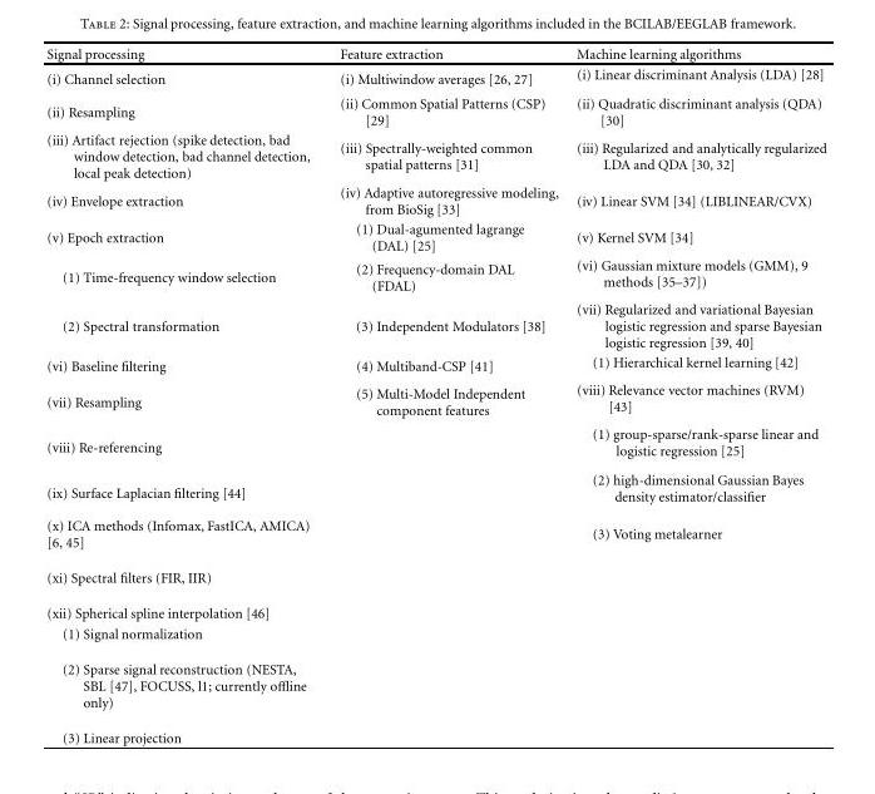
<table><thead><tr><td>Signal processing</td><td>Feature extraction</td><td>Machine learning algorithms</td></tr></thead><tbody><tr><td>(i) Channel selection</td><td>(i) Multiwindow averages [26, 27]</td><td>(i) Linear discriminant Analysis (LDA) [28]</td></tr><tr><td>(ii) Resampling</td><td>(ii) Common Spatial Patterns (CSP) [29]</td><td>(ii) Quadratic discriminant analysis (QDA) [30]</td></tr><tr><td>(iii) Artifact rejection (spike detection, bad window detection, bad channel detection, local peak detection)</td><td>(iii) Spectrally-weighted common spatial patterns [31]</td><td>(iii) Regularized and analytically regularized LDA and QDA [30, 32]</td></tr><tr><td>(iv) Envelope extraction</td><td>(iv) Adaptive autoregressive modeling, from BioSig [33]</td><td>(iv) Linear SVM [34] (LIBLINEAR/CVX)</td></tr><tr><td>(v) Epoch extraction</td><td>(1) Dual-agumented lagrange (DAL) [25]</td><td>(v) Kernel SVM [34]</td></tr><tr><td>(1) Time-frequency window selection</td><td>(2) Frequency-domain DAL (FDAL)</td><td>(vi) Gaussian mixture models (GMM), 9 methods [35–37])</td></tr><tr><td>(2) Spectral transformation</td><td>(3) Independent Modulators [38]</td><td>(vii) Regularized and variational Bayesian logistic regression and sparse Bayesian logistic regression [39, 40]</td></tr><tr><td>(vi) Baseline filtering</td><td>(4) Multiband-CSP [41]</td><td>(1) Hierarchical kernel learning [42]</td></tr><tr><td>(vii) Resampling</td><td>(5) Multi-Model Independent component features</td><td>(viii) Relevance vector machines (RVM) [43]</td></tr><tr><td>(viii) Re-referencing</td><td></td><td>(1) group-sparse/rank-sparse linear and logistic regression [25]</td></tr><tr><td>(ix) Surface Laplacian filtering [44]</td><td></td><td>(2) high-dimensional Gaussian Bayes density estimator/classifier</td></tr><tr><td>(x) ICA methods (Infomax, FastICA, AMICA) [6, 45]</td><td></td><td>(3) Voting metalearner</td></tr><tr><td colspan="3">(xi) Spectral filters (FIR, IIR)</td></tr><tr><td colspan="3">(xii) Spherical spline interpolation [46]</td></tr><tr><td colspan="3">(1) Signal normalization</td></tr><tr><td colspan="3">(2) Sparse signal reconstruction (NESTA, SBL [47], FOCUSS, l1; currently offline only)</td></tr><tr><td>(3) Linear projection</td><td></td><td></td></tr></tbody></table>